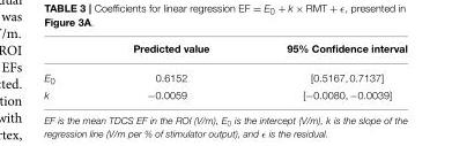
<table><thead><tr><td></td><td>Predicted value</td><td>95% Confidence interval</td></tr></thead><tbody><tr><td>E<sub>0</sub></td><td>0.6152</td><td>[0.5167, 0.7137]</td></tr><tr><td>k</td><td>−0.0059</td><td>[−0.0080, −0.0039]</td></tr></tbody></table>